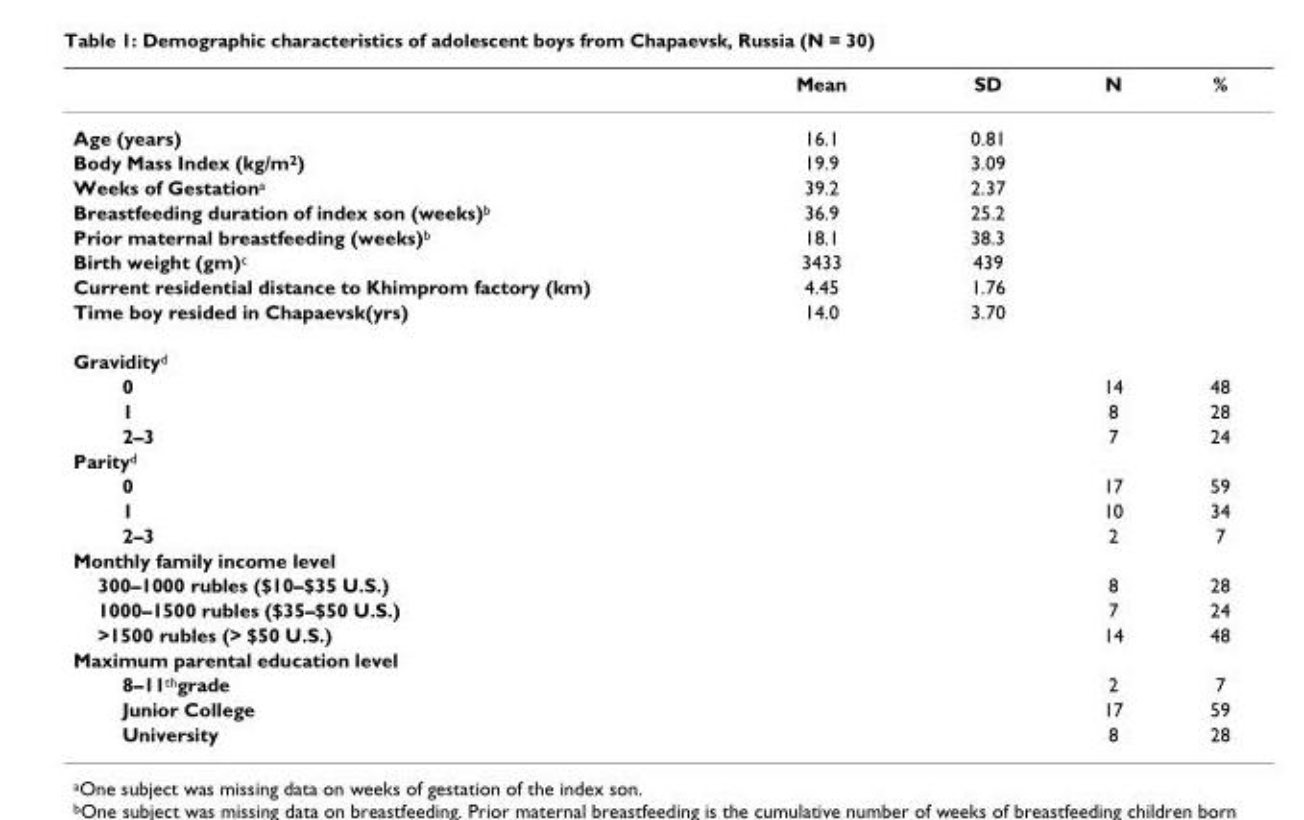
<table><thead><tr><td></td><td>Mean</td><td>SD</td><td>N</td><td>%</td></tr></thead><tbody><tr><td>Age (years)</td><td>16.1</td><td>0.81</td><td></td><td></td></tr><tr><td>Body Mass Index (kg/m<sup>2</sup>)</td><td>19.9</td><td>3.09</td><td></td><td></td></tr><tr><td>Weeks of Gestation<sup>a</sup></td><td>39.2</td><td>2.37</td><td></td><td></td></tr><tr><td>Breastfeeding duration of index son (weeks)<sup>b</sup></td><td>36.9</td><td>25.2</td><td></td><td></td></tr><tr><td>Prior maternal breastfeeding (weeks)<sup>b</sup></td><td>18.1</td><td>38.3</td><td></td><td></td></tr><tr><td>Birth weight (gm)<sup>c</sup></td><td>3433</td><td>439</td><td></td><td></td></tr><tr><td>Current residential distance to Khimprom factory (km)</td><td>4.45</td><td>1.76</td><td></td><td></td></tr><tr><td>Time boy resided in Chapaevsk(yrs)</td><td>14.0</td><td>3.70</td><td></td><td></td></tr><tr><td colspan="5">Gravidity<sup>d</sup></td></tr><tr><td>0</td><td></td><td></td><td>14</td><td>48</td></tr><tr><td>1</td><td></td><td></td><td>8</td><td>28</td></tr><tr><td>2–3</td><td></td><td></td><td>7</td><td>24</td></tr><tr><td colspan="5">Parity<sup>d</sup></td></tr><tr><td>0</td><td></td><td></td><td>17</td><td>59</td></tr><tr><td>1</td><td></td><td></td><td>10</td><td>34</td></tr><tr><td>2–3</td><td></td><td></td><td>2</td><td>7</td></tr><tr><td colspan="5">Monthly family income level</td></tr><tr><td>300–1000 rubles ($10–$35 U.S.)</td><td></td><td></td><td>8</td><td>28</td></tr><tr><td>1000–1500 rubles ($35–$50 U.S.)</td><td></td><td></td><td>7</td><td>24</td></tr><tr><td>&gt;1500 rubles (&gt; $50 U.S.)</td><td></td><td></td><td>14</td><td>48</td></tr><tr><td colspan="5">Maximum parental education level</td></tr><tr><td>8–11<sup>th</sup>grade</td><td></td><td></td><td>2</td><td>7</td></tr><tr><td>Junior College</td><td></td><td></td><td>17</td><td>59</td></tr><tr><td>University</td><td></td><td></td><td>8</td><td>28</td></tr></tbody></table>